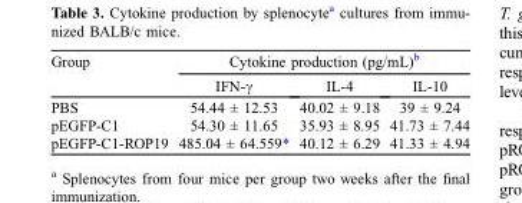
<table><thead><tr><td rowspan="2">Group</td><td colspan="3">Cytokine production (pg/mL)<sup>b</sup></td></tr><tr><td>IFN-γ</td><td>IL-4</td><td>IL-10</td></tr></thead><tbody><tr><td>PBS</td><td>54.44 ± 12.53</td><td>40.02 ± 9.18</td><td>39 ± 9.24</td></tr><tr><td>pEGFP-C1</td><td>54.30 ± 11.65</td><td>35.93 ± 8.95</td><td>41.73 ± 7.44</td></tr><tr><td>pEGFP-C1-ROP19</td><td>485.04 ± 64.559*</td><td>40.12 ± 6.29</td><td>41.33 ± 4.94</td></tr></tbody></table>